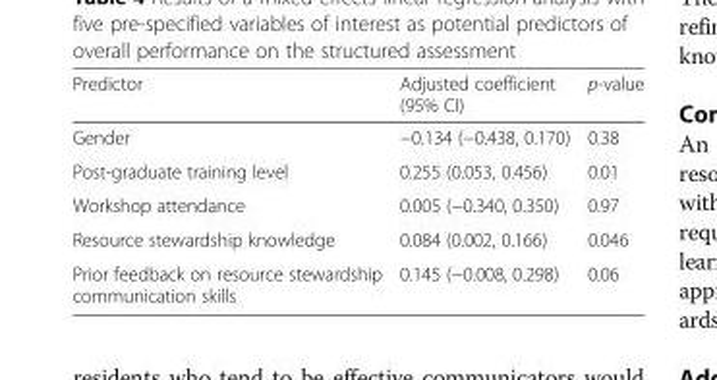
<table><thead><tr><td>Predictor</td><td>Adjusted coefficient (95% CI)</td><td>p-value</td></tr></thead><tbody><tr><td>Gender</td><td>−0.134 (−0.438, 0.170)</td><td>0.38</td></tr><tr><td>Post-graduate training level</td><td>0.255 (0.053, 0.456)</td><td>0.01</td></tr><tr><td>Workshop attendance</td><td>0.005 (−0.340, 0.350)</td><td>0.97</td></tr><tr><td>Resource stewardship knowledge</td><td>0.084 (0.002, 0.166)</td><td>0.046</td></tr><tr><td>Prior feedback on resource stewardship communication skills</td><td>0.145 (−0.008, 0.298)</td><td>0.06</td></tr></tbody></table>